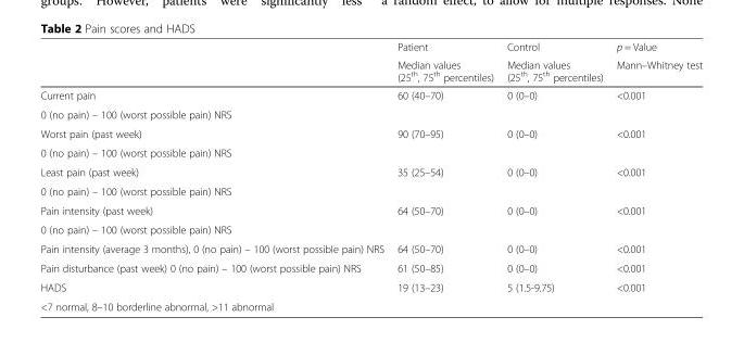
<table><thead><tr><td rowspan="2"></td><td rowspan="2">Patient Median values (25<sup>th</sup>, 75<sup>th</sup> percentiles)</td><td rowspan="2">Control Median values (25<sup>th</sup>, 75<sup>th</sup> percentiles)</td><td rowspan="2">p = Value Mann–Whitney test</td></tr><tr></tr></thead><tbody><tr><td>Current pain</td><td rowspan="2">60 (40–70)</td><td rowspan="2">0 (0–0)</td><td rowspan="2">&lt;0.001</td></tr><tr><td>0 (no pain) – 100 (worst possible pain) NRS</td></tr><tr><td>Worst pain (past week)</td><td rowspan="2">90 (70–95)</td><td rowspan="2">0 (0–0)</td><td rowspan="2">&lt;0.001</td></tr><tr><td>0 (no pain) – 100 (worst possible pain) NRS</td></tr><tr><td>Least pain (past week)</td><td rowspan="2">35 (25–54)</td><td rowspan="2">0 (0–0)</td><td rowspan="2">&lt;0.001</td></tr><tr><td>0 (no pain) – 100 (worst possible pain) NRS</td></tr><tr><td>Pain intensity (past week)</td><td rowspan="2">64 (50–70)</td><td rowspan="2">0 (0–0)</td><td rowspan="2">&lt;0.001</td></tr><tr><td>0 (no pain) – 100 (worst possible pain) NRS</td></tr><tr><td>Pain intensity (average 3 months), 0 (no pain) – 100 (worst possible pain) NRS</td><td>64 (50–70)</td><td>0 (0–0)</td><td>&lt;0.001</td></tr><tr><td>Pain disturbance (past week) 0 (no pain) – 100 (worst possible pain) NRS</td><td>61 (50–85)</td><td>0 (0–0)</td><td>&lt;0.001</td></tr><tr><td>HADS</td><td rowspan="2">19 (13–23)</td><td rowspan="2">5 (1.5-9.75)</td><td rowspan="2">&lt;0.001</td></tr><tr><td>&lt;7 normal, 8–10 borderline abnormal, &gt;11 abnormal</td></tr></tbody></table>